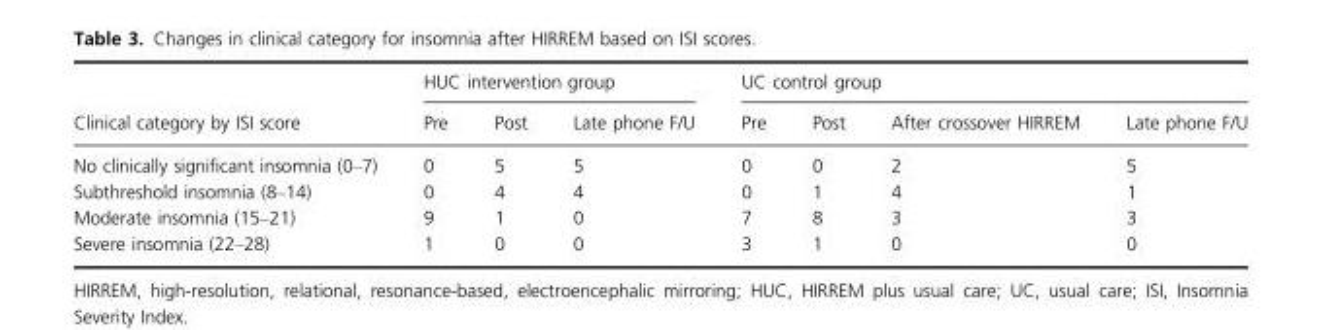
<table><thead><tr><td rowspan="2">Clinical category by ISI score</td><td colspan="3">HUC intervention group</td><td colspan="4">UC control group</td></tr><tr><td>Pre</td><td>Post</td><td>Late phone F/U</td><td>Pre</td><td>Post</td><td>After crossover HIRREM</td><td>Late phone F/U</td></tr></thead><tbody><tr><td>No clinically significant insomnia (0–7)</td><td>0</td><td>5</td><td>5</td><td>0</td><td>0</td><td>2</td><td>5</td></tr><tr><td>Subthreshold insomnia (8–14)</td><td>0</td><td>4</td><td>4</td><td>0</td><td>1</td><td>4</td><td>1</td></tr><tr><td>Moderate insomnia (15–21)</td><td>9</td><td>1</td><td>0</td><td>7</td><td>8</td><td>3</td><td>3</td></tr><tr><td>Severe insomnia (22–28)</td><td>1</td><td>0</td><td>0</td><td>3</td><td>1</td><td>0</td><td>0</td></tr></tbody></table>